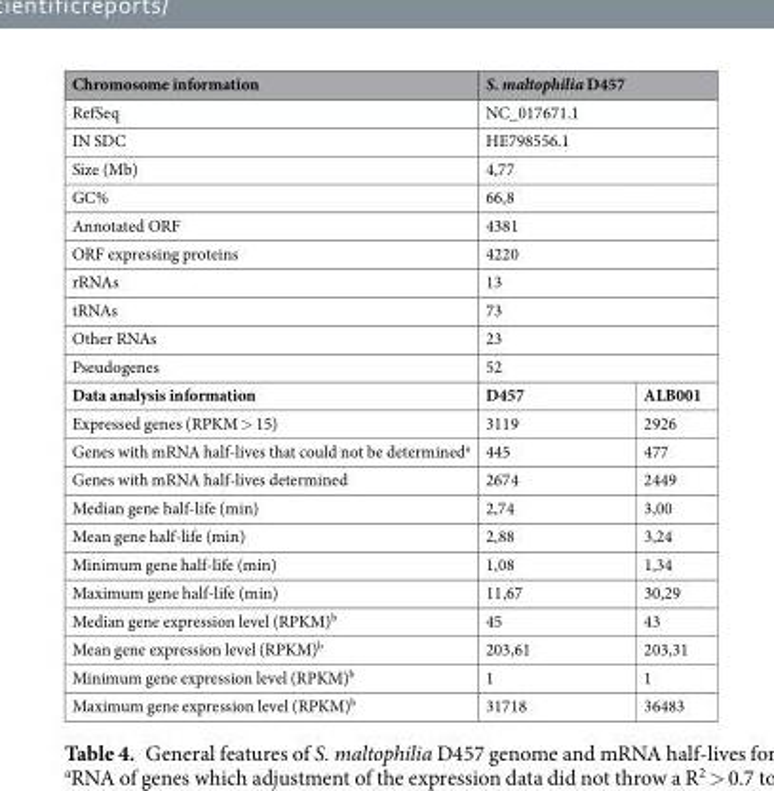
<table><thead><tr><td>Chromosome information</td><td colspan="2">S. maltophilia D457</td></tr></thead><tbody><tr><td>RefSeq</td><td colspan="2">NC_017671.1</td></tr><tr><td>IN SDC</td><td colspan="2">HE798556.1</td></tr><tr><td>Size (Mb)</td><td colspan="2">4,77</td></tr><tr><td>GC%</td><td colspan="2">66,8</td></tr><tr><td>Annotated ORF</td><td colspan="2">4381</td></tr><tr><td>ORF expressing proteins</td><td colspan="2">4220</td></tr><tr><td>rRNAs</td><td colspan="2">13</td></tr><tr><td>tRNAs</td><td colspan="2">73</td></tr><tr><td>Other RNAs</td><td colspan="2">23</td></tr><tr><td>Pseudogenes</td><td colspan="2">52</td></tr><tr><td>Data analysis information</td><td>D457</td><td>ALB001</td></tr><tr><td>Expressed genes (RPKM &gt; 15)</td><td>3119</td><td>2926</td></tr><tr><td>Genes with mRNA half-lives that could not be determined<sup>a</sup></td><td>445</td><td>477</td></tr><tr><td>Genes with mRNA half-lives determined</td><td>2674</td><td>2449</td></tr><tr><td>Median gene half-life (min)</td><td>2,74</td><td>3,00</td></tr><tr><td>Mean gene half-life (min)</td><td>2,88</td><td>3,24</td></tr><tr><td>Minimum gene half-life (min)</td><td>1,08</td><td>1,34</td></tr><tr><td>Maximum gene half-life (min)</td><td>11,67</td><td>30,29</td></tr><tr><td>Median gene expression level (RPKM)<sup>b</sup></td><td>45</td><td>43</td></tr><tr><td>Mean gene expression level (RPKM)<sup>b</sup></td><td>203,61</td><td>203,31</td></tr><tr><td>Minimum gene expression level (RPKM)<sup>b</sup></td><td>1</td><td>1</td></tr><tr><td>Maximum gene expression level (RPKM)<sup>b</sup></td><td>31718</td><td>36483</td></tr></tbody></table>